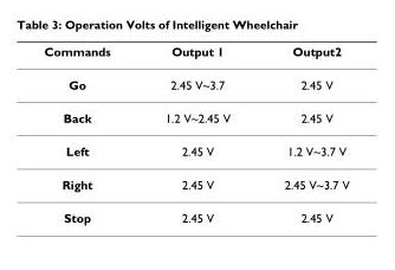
<table><thead><tr><td>Commands</td><td>Output 1</td><td>Output2</td></tr></thead><tbody><tr><td>Go</td><td>2.45 V~3.7</td><td>2.45 V</td></tr><tr><td>Back</td><td>1.2 V~2.45 V</td><td>2.45 V</td></tr><tr><td>Left</td><td>2.45 V</td><td>1.2 V~3.7 V</td></tr><tr><td>Right</td><td>2.45 V</td><td>2.45 V~3.7 V</td></tr><tr><td>Stop</td><td>2.45 V</td><td>2.45 V</td></tr></tbody></table>